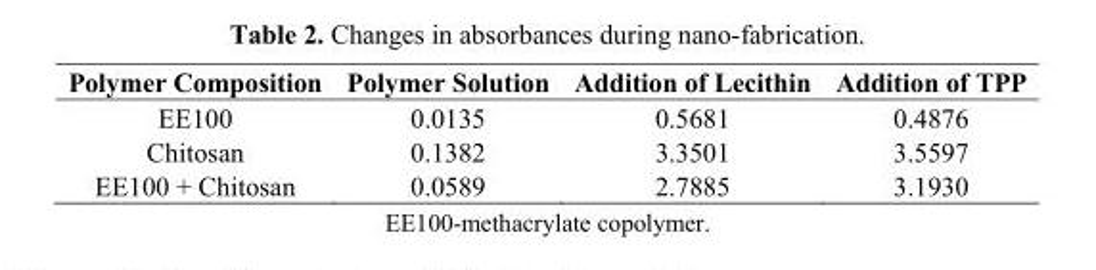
<table><thead><tr><td>Polymer Composition</td><td>Polymer Solution</td><td>Addition of Lecithin</td><td>Addition of TPP</td></tr></thead><tbody><tr><td>EE100</td><td>0.0135</td><td>0.5681</td><td>0.4876</td></tr><tr><td>Chitosan</td><td>0.1382</td><td>3.3501</td><td>3.5597</td></tr><tr><td>EE100 + Chitosan</td><td>0.0589</td><td>2.7885</td><td>3.1930</td></tr></tbody></table>